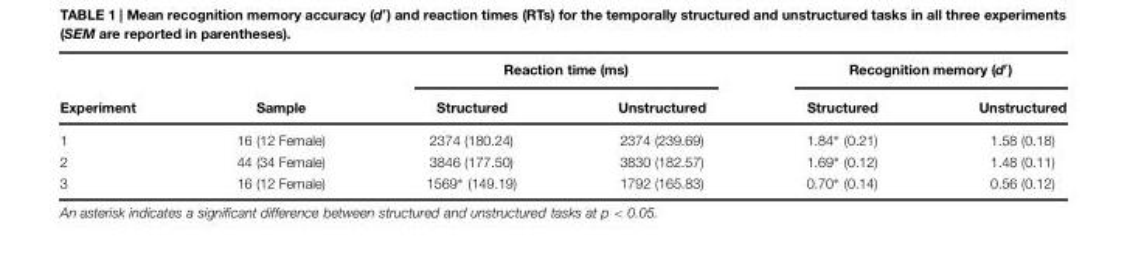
<table><thead><tr><td rowspan="2">Experiment</td><td rowspan="2">Sample</td><td colspan="2">Reaction time (ms)</td><td colspan="2">Recognition memory (d′)</td></tr><tr><td>Structured</td><td>Unstructured</td><td>Structured</td><td>Unstructured</td></tr></thead><tbody><tr><td>1</td><td>16 (12 Female)</td><td>2374 (180.24)</td><td>2374 (239.69)</td><td>1.84∗ (0.21)</td><td>1.58 (0.18)</td></tr><tr><td>2</td><td>44 (34 Female)</td><td>3846 (177.50)</td><td>3830 (182.57)</td><td>1.69∗ (0.12)</td><td>1.48 (0.11)</td></tr><tr><td>3</td><td>16 (12 Female)</td><td>1569∗ (149.19)</td><td>1792 (165.83)</td><td>0.70∗ (0.14)</td><td>0.56 (0.12)</td></tr></tbody></table>